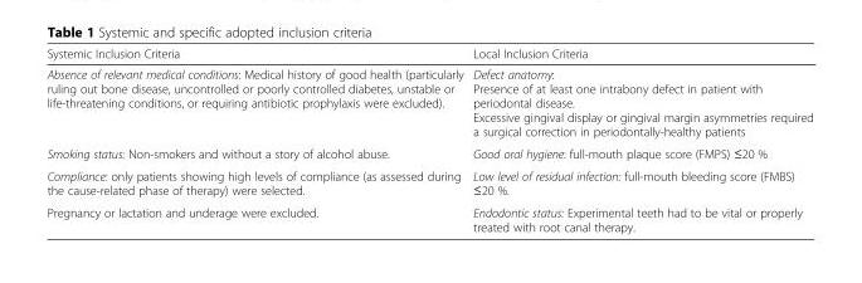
<table><thead><tr><td>Systemic Inclusion Criteria</td><td>Local Inclusion Criteria</td></tr></thead><tbody><tr><td>Absence of relevant medical conditions: Medical history of good health (particularly ruling out bone disease, uncontrolled or poorly controlled diabetes, unstable or life-threatening conditions, or requiring antibiotic prophylaxis were excluded).</td><td>Defect anatomy: Presence of at least one intrabony defect in patient with periodontal disease. Excessive gingival display or gingival margin asymmetries required a surgical correction in periodontally-healthy patients</td></tr><tr><td>Smoking status: Non-smokers and without a story of alcohol abuse.</td><td>Good oral hygiene: full-mouth plaque score (FMPS) ≤20 %</td></tr><tr><td>Compliance: only patients showing high levels of compliance (as assessed during the cause-related phase of therapy) were selected.</td><td>Low level of residual infection: full-mouth bleeding score (FMBS) ≤20 %.</td></tr><tr><td>Pregnancy or lactation and underage were excluded.</td><td>Endodontic status: Experimental teeth had to be vital or properly treated with root canal therapy.</td></tr></tbody></table>